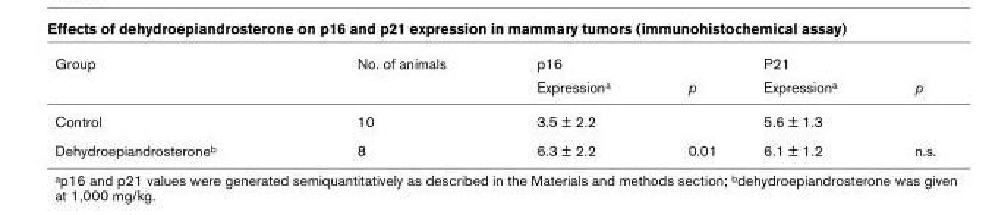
<table><thead><tr><td rowspan="2">Group</td><td rowspan="2">No. of animals</td><td colspan="2">p16</td><td colspan="2">P21</td></tr><tr><td>Expressiona</td><td>p</td><td>Expressiona</td><td>p</td></tr></thead><tbody><tr><td>Control</td><td>10</td><td>3.5 ± 2.2</td><td></td><td>5.6 ± 1.3</td><td></td></tr><tr><td>Dehydroepiandrosteroneb</td><td>8</td><td>6.3 ± 2.2</td><td>0.01</td><td>6.1 ± 1.2</td><td>n.s.</td></tr></tbody></table>